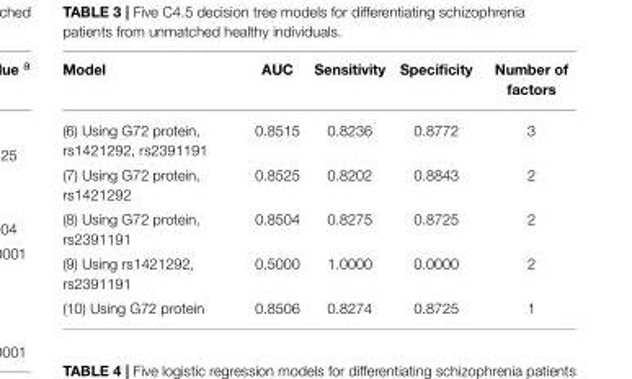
<table><thead><tr><td>Model</td><td>AUC</td><td>Sensitivity</td><td>Specificity</td><td>Number of factors</td></tr></thead><tbody><tr><td>(6) Using G72 protein, rs1421292, rs2391191</td><td>0.8515</td><td>0.8236</td><td>0.8772</td><td>3</td></tr><tr><td>(7) Using G72 protein, rs1421292</td><td>0.8525</td><td>0.8202</td><td>0.8843</td><td>2</td></tr><tr><td>(8) Using G72 protein, rs2391191</td><td>0.8504</td><td>0.8275</td><td>0.8725</td><td>2</td></tr><tr><td>(9) Using rs1421292, rs2391191</td><td>0.5000</td><td>1.0000</td><td>0.0000</td><td>2</td></tr><tr><td>(10) Using G72 protein</td><td>0.8506</td><td>0.8274</td><td>0.8725</td><td>1</td></tr></tbody></table>